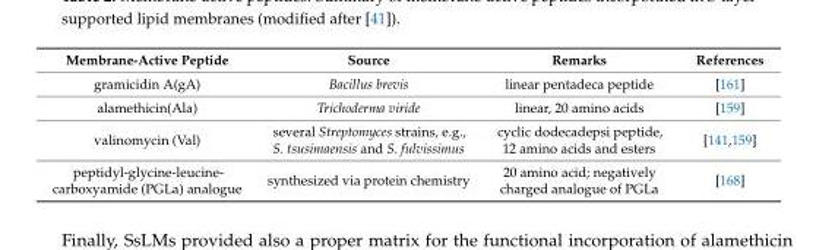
<table><thead><tr><td>Membrane-Active Peptide</td><td>Source</td><td>Remarks</td><td>References</td></tr></thead><tbody><tr><td>gramicidin A(gA)</td><td>Bacillus brevis</td><td>linear pentadeca peptide</td><td>[161]</td></tr><tr><td>alamethicin(Ala)</td><td>Trichoderma viride</td><td>linear, 20 amino acids</td><td>[159]</td></tr><tr><td>valinomycin (Val)</td><td>several Streptomyces strains, e.g., S. tsusimaensis and S. fulvissimus</td><td>cyclic dodecadepsi peptide, 12 amino acids and esters</td><td>[141,159]</td></tr><tr><td>peptidyl-glycine-leucine- carboxyamide (PGLa) analogue</td><td>synthesized via protein chemistry</td><td>20 amino acid; negatively charged analogue of PGLa</td><td>[168]</td></tr></tbody></table>